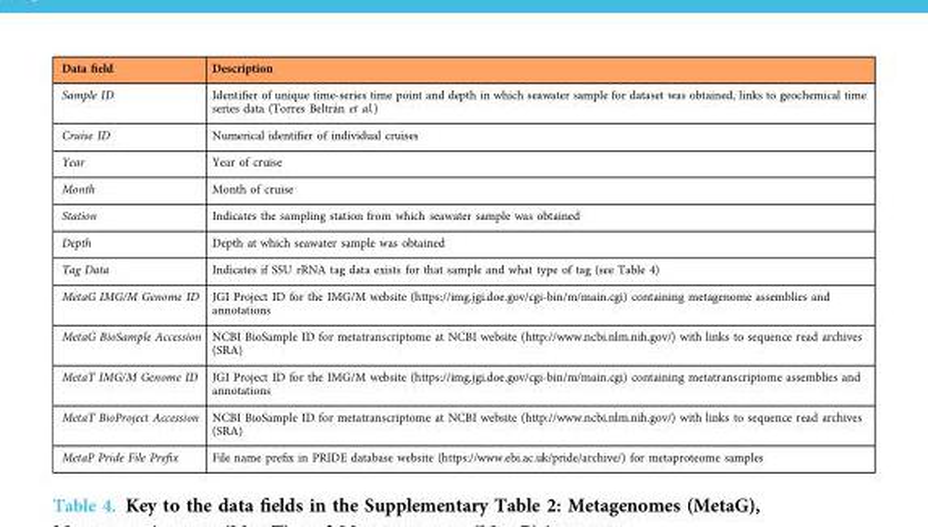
<table><thead><tr><td>Data field</td><td>Description</td></tr></thead><tbody><tr><td>Sample ID</td><td>Identifier of unique time-series time point and depth in which seawater sample for dataset was obtained, links to geochemical time series data (Torres Beltrán et al.)</td></tr><tr><td>Cruise ID</td><td>Numerical identifier of individual cruises</td></tr><tr><td>Year</td><td>Year of cruise</td></tr><tr><td>Month</td><td>Month of cruise</td></tr><tr><td>Station</td><td>Indicates the sampling station from which seawater sample was obtained</td></tr><tr><td>Depth</td><td>Depth at which seawater sample was obtained</td></tr><tr><td>Tag Data</td><td>Indicates if SSU rRNA tag data exists for that sample and what type of tag (see Table 4)</td></tr><tr><td>MetaG IMG/M Genome ID</td><td>JGI Project ID for the IMG/M website (https://img.jgi.doe.gov/cgi-bin/m/main.cgi) containing metagenome assemblies and annotations</td></tr><tr><td>MetaG BioSample Accession</td><td>NCBI BioSample ID for metatranscriptome at NCBI website (http://www.ncbi.nlm.nih.gov/) with links to sequence read archives (SRA)</td></tr><tr><td>MetaT IMG/M Genome ID</td><td>JGI Project ID for the IMG/M website (https://img.jgi.doe.gov/cgi-bin/m/main.cgi) containing metatranscriptome assemblies and annotations</td></tr><tr><td>MetaT BioProject Accession</td><td>NCBI BioSample ID for metatranscriptome at NCBI website (http://www.ncbi.nlm.nih.gov/) with links to sequence read archives (SRA)</td></tr><tr><td>MetaP Pride File Prefix</td><td>File name prefix in PRIDE database website (https://www.ebi.ac.uk/pride/archive/) for metaproteome samples</td></tr></tbody></table>